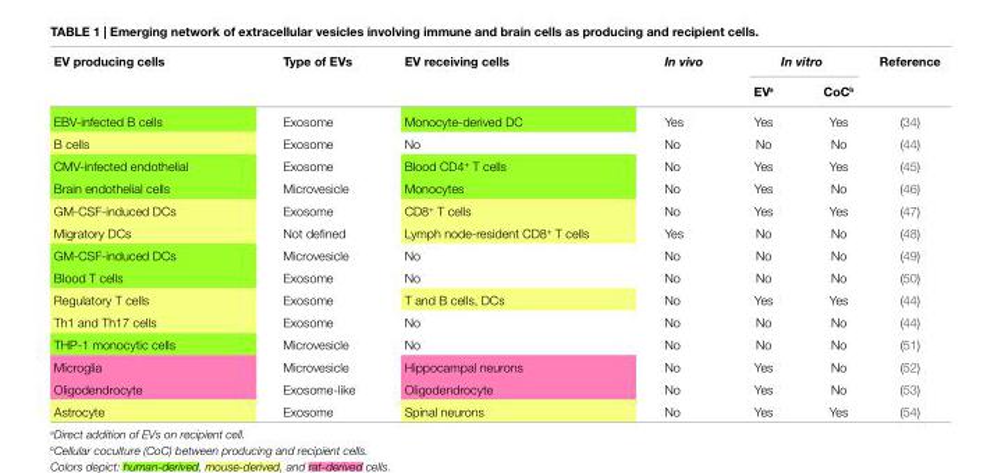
<table><thead><tr><td rowspan="2">ev producing cells</td><td rowspan="2">Type of evs</td><td rowspan="2">ev receiving cells</td><td rowspan="2">In vivo</td><td colspan="2">In vitro</td><td rowspan="2">Reference</td></tr><tr><td>ev<sup>a</sup></td><td>CoC<sup>b</sup></td></tr></thead><tbody><tr><td>EBV-infected B cells</td><td>Exosome</td><td>Monocyte-derived DC</td><td>Yes</td><td>Yes</td><td>Yes</td><td>(34)</td></tr><tr><td>B cells</td><td>Exosome</td><td>No</td><td>No</td><td>No</td><td>No</td><td>(44)</td></tr><tr><td>CMV-infected endothelial</td><td>Exosome</td><td>Blood CD4<sup>+</sup> T cells</td><td>No</td><td>Yes</td><td>Yes</td><td>(45)</td></tr><tr><td>Brain endothelial cells</td><td>Microvesicle</td><td>Monocytes</td><td>No</td><td>Yes</td><td>No</td><td>(46)</td></tr><tr><td>GM-CSF-induced DCs</td><td>Exosome</td><td>CD8<sup>+</sup> T cells</td><td>No</td><td>Yes</td><td>Yes</td><td>(47)</td></tr><tr><td>Migratory DCs</td><td>Not defined</td><td>Lymph node-resident CD8<sup>+</sup> T cells</td><td>Yes</td><td>No</td><td>No</td><td>(48)</td></tr><tr><td>GM-CSF-induced DCs</td><td>Microvesicle</td><td>No</td><td>No</td><td>No</td><td>No</td><td>(49)</td></tr><tr><td>Blood T cells</td><td>Exosome</td><td>No</td><td>No</td><td>No</td><td>No</td><td>(50)</td></tr><tr><td>Regulatory T cells</td><td>Exosome</td><td>T and B cells, DCs</td><td>No</td><td>Yes</td><td>Yes</td><td>(44)</td></tr><tr><td>Th1 and Th17 cells</td><td>Exosome</td><td>No</td><td>No</td><td>No</td><td>No</td><td>(44)</td></tr><tr><td>THP-1 monocytic cells</td><td>Microvesicle</td><td>No</td><td>No</td><td>No</td><td>No</td><td>(51)</td></tr><tr><td>Microglia</td><td>Microvesicle</td><td>Hippocampal neurons</td><td>No</td><td>Yes</td><td>No</td><td>(52)</td></tr><tr><td>Oligodendrocyte</td><td>Exosome-like</td><td>Oligodendrocyte</td><td>No</td><td>Yes</td><td>No</td><td>(53)</td></tr><tr><td>Astrocyte</td><td>Exosome</td><td>Spinal neurons</td><td>No</td><td>Yes</td><td>Yes</td><td>(54)</td></tr></tbody></table>